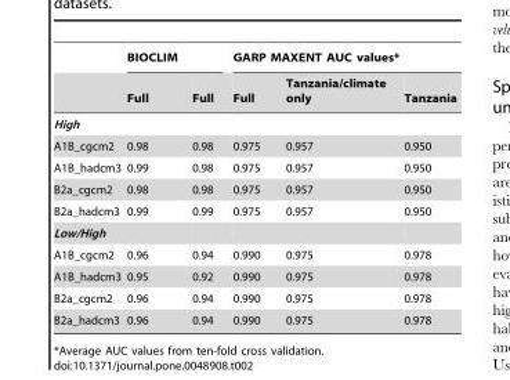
<table><thead><tr><td rowspan="2"></td><td colspan="2">BIOCLIM</td><td colspan="3">GARP MAXENT AUC values*</td></tr><tr><td>Full</td><td>Full</td><td>Full</td><td>Tanzania/climate only</td><td>Tanzania</td></tr></thead><tbody><tr><td colspan="6">High</td></tr><tr><td>A1B_cgcm2</td><td>0.98</td><td>0.98</td><td>0.975</td><td>0.957</td><td>0.950</td></tr><tr><td>A1B_hadcm3</td><td>0.99</td><td>0.98</td><td>0.975</td><td>0.957</td><td>0.950</td></tr><tr><td>B2a_cgcm2</td><td>0.98</td><td>0.98</td><td>0.975</td><td>0.957</td><td>0.950</td></tr><tr><td>B2a_hadcm3</td><td>0.99</td><td>0.99</td><td>0.975</td><td>0.957</td><td>0.950</td></tr><tr><td colspan="6">Low/High</td></tr><tr><td>A1B_cgcm2</td><td>0.96</td><td>0.94</td><td>0.990</td><td>0.975</td><td>0.978</td></tr><tr><td>A1B_hadcm3</td><td>0.95</td><td>0.92</td><td>0.990</td><td>0.975</td><td>0.978</td></tr><tr><td>B2a_cgcm2</td><td>0.96</td><td>0.94</td><td>0.990</td><td>0.975</td><td>0.978</td></tr><tr><td>B2a_hadcm3</td><td>0.96</td><td>0.94</td><td>0.990</td><td>0.975</td><td>0.978</td></tr></tbody></table>